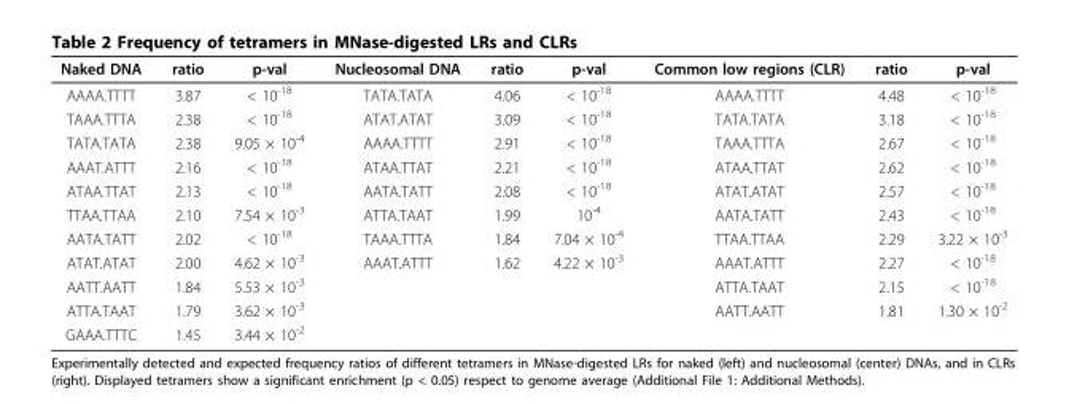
<table><thead><tr><td>Naked DNA</td><td>ratio</td><td>p-val</td><td>Nucleosomal DNA</td><td>ratio</td><td>p-val</td><td>Common low regions (CLR)</td><td>ratio</td><td>p-val</td></tr></thead><tbody><tr><td>AAAA.TTTT</td><td>3.87</td><td>&lt; 10<sup>-18</sup></td><td>TATA.TATA</td><td>4.06</td><td>&lt; 10<sup>-18</sup></td><td>AAAA.TTTT</td><td>4.48</td><td>&lt; 10<sup>-18</sup></td></tr><tr><td>TAAA.TTTA</td><td>2.38</td><td>&lt; 10<sup>-18</sup></td><td>ATAT.ATAT</td><td>3.09</td><td>&lt; 10<sup>-18</sup></td><td>TATA.TATA</td><td>3.18</td><td>&lt; 10<sup>-18</sup></td></tr><tr><td>TATA.TATA</td><td>2.38</td><td>9.05 × 10<sup>-4</sup></td><td>AAAA.TTTT</td><td>2.91</td><td>&lt; 10<sup>-18</sup></td><td>TAAA.TTTA</td><td>2.67</td><td>&lt; 10<sup>-18</sup></td></tr><tr><td>AAAT.ATTT</td><td>2.16</td><td>&lt; 10<sup>-18</sup></td><td>ATAA.TTAT</td><td>2.21</td><td>&lt; 10<sup>-18</sup></td><td>ATAA.TTAT</td><td>2.62</td><td>&lt; 10<sup>-18</sup></td></tr><tr><td>ATAA.TTAT</td><td>2.13</td><td>&lt; 10<sup>-18</sup></td><td>AATA.TATT</td><td>2.08</td><td>&lt; 10<sup>-18</sup></td><td>ATAT.ATAT</td><td>2.57</td><td>&lt; 10<sup>-18</sup></td></tr><tr><td>TTAA.TTAA</td><td>2.10</td><td>7.54 × 10<sup>-3</sup></td><td>ATTA.TAAT</td><td>1.99</td><td>10<sup>-4</sup></td><td>AATA.TATT</td><td>2.43</td><td>&lt; 10<sup>-18</sup></td></tr><tr><td>AATA.TATT</td><td>2.02</td><td>&lt; 10<sup>-18</sup></td><td>TAAA.TTTA</td><td>1.84</td><td>7.04 × 10<sup>-4</sup></td><td>TTAA.TTAA</td><td>2.29</td><td>3.22 × 10<sup>-3</sup></td></tr><tr><td>ATAT.ATAT</td><td>2.00</td><td>4.62 × 10<sup>-3</sup></td><td>AAAT.ATTT</td><td>1.62</td><td>4.22 × 10<sup>-3</sup></td><td>AAAT.ATTT</td><td>2.27</td><td>&lt; 10<sup>-18</sup></td></tr><tr><td>AATT.AATT</td><td>1.84</td><td>5.53 × 10<sup>-3</sup></td><td></td><td></td><td></td><td>ATTA.TAAT</td><td>2.15</td><td>&lt; 10<sup>-18</sup></td></tr><tr><td>ATTA.TAAT</td><td>1.79</td><td>3.62 × 10<sup>-3</sup></td><td></td><td></td><td></td><td>AATT.AATT</td><td>1.81</td><td>1.30 × 10<sup>-2</sup></td></tr><tr><td>GAAA.TTTC</td><td>1.45</td><td>3.44 × 10<sup>-2</sup></td><td></td><td></td><td></td><td></td><td></td><td></td></tr></tbody></table>